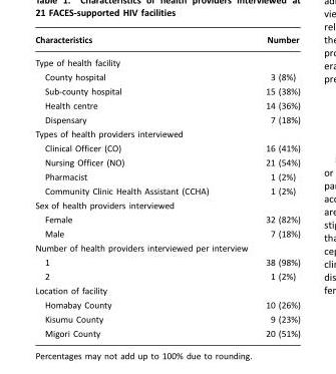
<table><thead><tr><td>Characteristics</td><td>Number</td></tr></thead><tbody><tr><td colspan="2">Type of health facility</td></tr><tr><td>County hospital</td><td>3 (8%)</td></tr><tr><td>Sub-county hospital</td><td>15 (38%)</td></tr><tr><td>Health centre</td><td>14 (36%)</td></tr><tr><td>Dispensary</td><td>7 (18%)</td></tr><tr><td colspan="2">Types of health providers interviewed</td></tr><tr><td>Clinical Officer (CO)</td><td>16 (41%)</td></tr><tr><td>Nursing Officer (NO)</td><td>21 (54%)</td></tr><tr><td>Pharmacist</td><td>1 (2%)</td></tr><tr><td>Community Clinic Health Assistant (CCHA)</td><td>1 (2%)</td></tr><tr><td colspan="2">Sex of health providers interviewed</td></tr><tr><td>Female</td><td>32 (82%)</td></tr><tr><td>Male</td><td>7 (18%)</td></tr><tr><td colspan="2">Number of health providers interviewed per interview</td></tr><tr><td>1</td><td>38 (98%)</td></tr><tr><td>2</td><td>1 (2%)</td></tr><tr><td colspan="2">Location of facility</td></tr><tr><td>Homabay County</td><td>10 (26%)</td></tr><tr><td>Kisumu County</td><td>9 (23%)</td></tr><tr><td>Migori County</td><td>20 (51%)</td></tr></tbody></table>